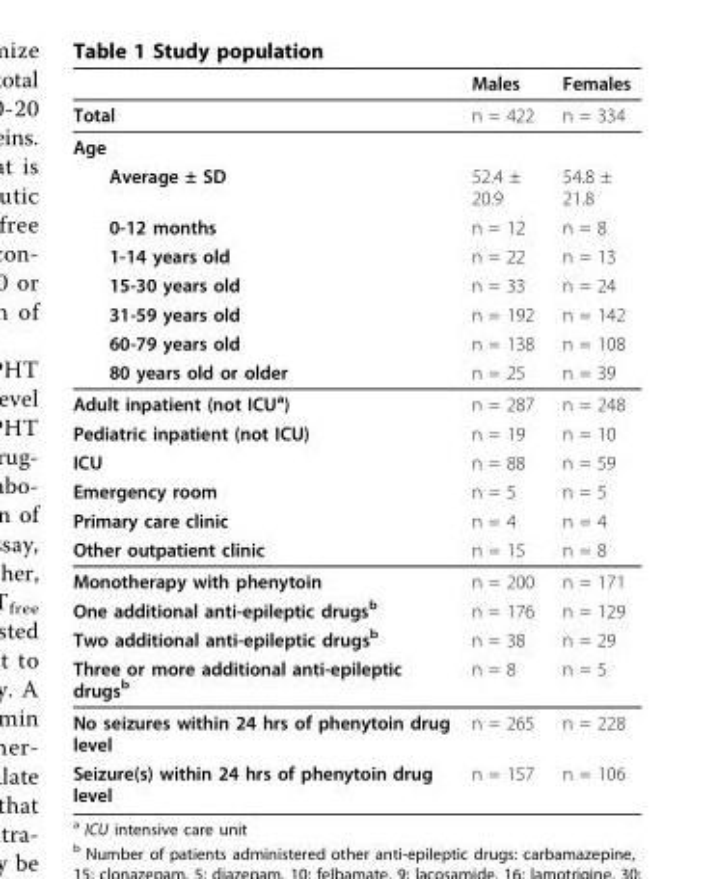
<table><thead><tr><td></td><td>Males</td><td>Females</td></tr></thead><tbody><tr><td>Total</td><td>n = 422</td><td>n = 334</td></tr><tr><td colspan="3">Age</td></tr><tr><td>Average ± SD</td><td>52.4 ± 20.9</td><td>54.8 ± 21.8</td></tr><tr><td>0-12 months</td><td>n = 12</td><td>n = 8</td></tr><tr><td>1-14 years old</td><td>n = 22</td><td>n = 13</td></tr><tr><td>15-30 years old</td><td>n = 33</td><td>n = 24</td></tr><tr><td>31-59 years old</td><td>n = 192</td><td>n = 142</td></tr><tr><td>60-79 years old</td><td>n = 138</td><td>n = 108</td></tr><tr><td>80 years old or older</td><td>n = 25</td><td>n = 39</td></tr><tr><td>Adult inpatient (not ICU<sup>a</sup>)</td><td>n = 287</td><td>n = 248</td></tr><tr><td>Pediatric inpatient (not ICU)</td><td>n = 19</td><td>n = 10</td></tr><tr><td>ICU</td><td>n = 88</td><td>n = 59</td></tr><tr><td>Emergency room</td><td>n = 5</td><td>n = 5</td></tr><tr><td>Primary care clinic</td><td>n = 4</td><td>n = 4</td></tr><tr><td>Other outpatient clinic</td><td>n = 15</td><td>n = 8</td></tr><tr><td>Monotherapy with phenytoin</td><td>n = 200</td><td>n = 171</td></tr><tr><td>One additional anti-epileptic drugs<sup>b</sup></td><td>n = 176</td><td>n = 129</td></tr><tr><td>Two additional anti-epileptic drugs<sup>b</sup></td><td>n = 38</td><td>n = 29</td></tr><tr><td>Three or more additional anti-epileptic drugs<sup>b</sup></td><td>n = 8</td><td>n = 5</td></tr><tr><td>No seizures within 24 hrs of phenytoin drug level</td><td>n = 265</td><td>n = 228</td></tr><tr><td>Seizure(s) within 24 hrs of phenytoin drug level</td><td>n = 157</td><td>n = 106</td></tr></tbody></table>